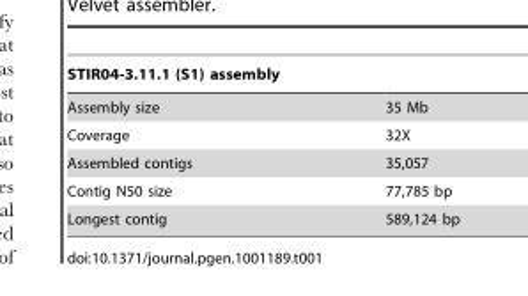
<table><thead><tr><td>STIR04-3.11.1 (S1) assembly</td><td></td></tr></thead><tbody><tr><td>Assembly size</td><td>35 Mb</td></tr><tr><td>Coverage</td><td>32X</td></tr><tr><td>Assembled contigs</td><td>35,057</td></tr><tr><td>Contig N50 size</td><td>77,785 bp</td></tr><tr><td>Longest contig</td><td>589,124 bp</td></tr></tbody></table>